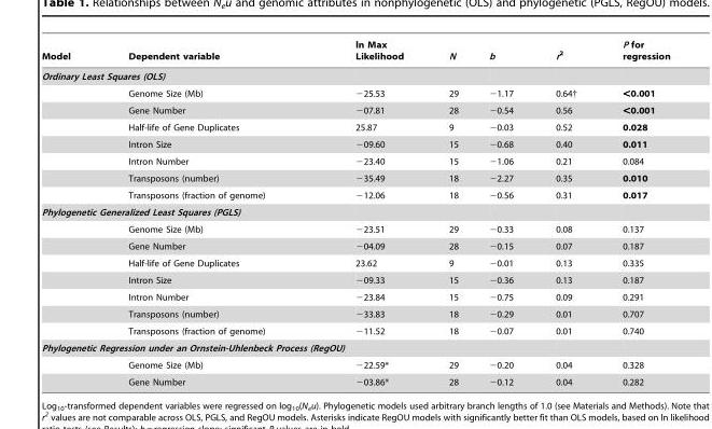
<table><thead><tr><td>Model</td><td>Dependent variable</td><td>ln Max Likelihood</td><td>N</td><td>b</td><td>r<sup>2</sup></td><td>P for regression</td></tr></thead><tbody><tr><td colspan="7">Ordinary Least Squares (OLS)</td></tr><tr><td></td><td>Genome Size (Mb)</td><td>−25.53</td><td>29</td><td>−1.17</td><td>0.64†</td><td>&lt;0.001</td></tr><tr><td></td><td>Gene Number</td><td>−07.81</td><td>28</td><td>−0.54</td><td>0.56</td><td>&lt;0.001</td></tr><tr><td></td><td>Half-life of Gene Duplicates</td><td>25.87</td><td>9</td><td>−0.03</td><td>0.52</td><td>0.028</td></tr><tr><td></td><td>Intron Size</td><td>−09.60</td><td>15</td><td>−0.68</td><td>0.40</td><td>0.011</td></tr><tr><td></td><td>Intron Number</td><td>−23.40</td><td>15</td><td>−1.06</td><td>0.21</td><td>0.084</td></tr><tr><td></td><td>Transposons (number)</td><td>−35.49</td><td>18</td><td>−2.27</td><td>0.35</td><td>0.010</td></tr><tr><td></td><td>Transposons (fraction of genome)</td><td>−12.06</td><td>18</td><td>−0.56</td><td>0.31</td><td>0.017</td></tr><tr><td colspan="7">Phylogenetic Generalized Least Squares (PGLS)</td></tr><tr><td></td><td>Genome Size (Mb)</td><td>−23.51</td><td>29</td><td>−0.33</td><td>0.08</td><td>0.137</td></tr><tr><td></td><td>Gene Number</td><td>−04.09</td><td>28</td><td>−0.15</td><td>0.07</td><td>0.187</td></tr><tr><td></td><td>Half-life of Gene Duplicates</td><td>23.62</td><td>9</td><td>−0.01</td><td>0.13</td><td>0.335</td></tr><tr><td></td><td>Intron Size</td><td>−09.33</td><td>15</td><td>−0.36</td><td>0.13</td><td>0.187</td></tr><tr><td></td><td>Intron Number</td><td>−23.84</td><td>15</td><td>−0.75</td><td>0.09</td><td>0.291</td></tr><tr><td></td><td>Transposons (number)</td><td>−33.83</td><td>18</td><td>−0.29</td><td>0.01</td><td>0.707</td></tr><tr><td></td><td>Transposons (fraction of genome)</td><td>−11.52</td><td>18</td><td>−0.07</td><td>0.01</td><td>0.740</td></tr><tr><td colspan="7">Phylogenetic Regression under an Ornstein-Uhlenbeck Process (RegOU)</td></tr><tr><td></td><td>Genome Size (Mb)</td><td>−22.59*</td><td>29</td><td>−0.20</td><td>0.04</td><td>0.328</td></tr><tr><td></td><td>Gene Number</td><td>−03.86*</td><td>28</td><td>−0.12</td><td>0.04</td><td>0.282</td></tr></tbody></table>